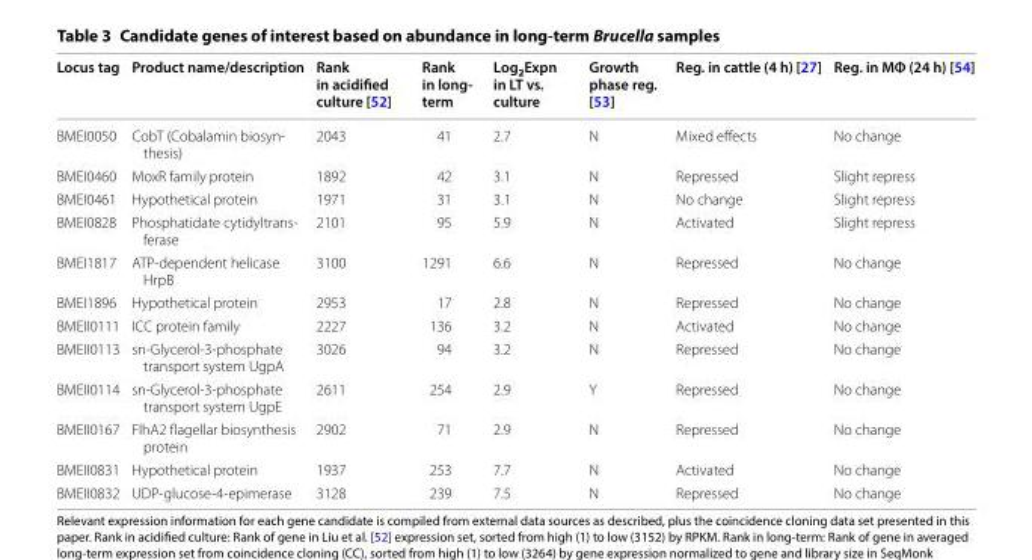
<table><thead><tr><td>Locus tag</td><td>Product name/description</td><td>Rank in acidified culture [52]</td><td>Rank in long‑ term</td><td>Log<sub>2</sub>Expn in LT vs. culture</td><td>Growth phase reg. [53]</td><td>Reg. in cattle (4 h) [27]</td><td>Reg. in MΦ (24 h) [54]</td></tr></thead><tbody><tr><td>BMEI0050</td><td>CobT (Cobalamin biosyn- thesis)</td><td>2043</td><td>41</td><td>2.7</td><td>N</td><td>Mixed effects</td><td>No change</td></tr><tr><td>BMEI0460</td><td>MoxR family protein</td><td>1892</td><td>42</td><td>3.1</td><td>N</td><td>Repressed</td><td>Slight repress</td></tr><tr><td>BMEI0461</td><td>Hypothetical protein</td><td>1971</td><td>31</td><td>3.1</td><td>N</td><td>No change</td><td>Slight repress</td></tr><tr><td>BMEI0828</td><td>Phosphatidate cytidyltrans- ferase</td><td>2101</td><td>95</td><td>5.9</td><td>N</td><td>Activated</td><td>Slight repress</td></tr><tr><td>BMEI1817</td><td>ATP-dependent helicase HrpB</td><td>3100</td><td>1291</td><td>6.6</td><td>N</td><td>Repressed</td><td>No change</td></tr><tr><td>BMEI1896</td><td>Hypothetical protein</td><td>2953</td><td>17</td><td>2.8</td><td>N</td><td>Repressed</td><td>No change</td></tr><tr><td>BMEII0111</td><td>ICC protein family</td><td>2227</td><td>136</td><td>3.2</td><td>N</td><td>Activated</td><td>No change</td></tr><tr><td>BMEII0113</td><td>sn-Glycerol-3-phosphate transport system UgpA</td><td>3026</td><td>94</td><td>3.2</td><td>N</td><td>Repressed</td><td>No change</td></tr><tr><td>BMEII0114</td><td>sn-Glycerol-3-phosphate transport system UgpE</td><td>2611</td><td>254</td><td>2.9</td><td>Y</td><td>Repressed</td><td>No change</td></tr><tr><td>BMEII0167</td><td>FlhA2 flagellar biosynthesis protein</td><td>2902</td><td>71</td><td>2.9</td><td>N</td><td>Repressed</td><td>No change</td></tr><tr><td>BMEII0831</td><td>Hypothetical protein</td><td>1937</td><td>253</td><td>7.7</td><td>N</td><td>Activated</td><td>No change</td></tr><tr><td>BMEII0832</td><td>UDP-glucose-4-epimerase</td><td>3128</td><td>239</td><td>7.5</td><td>N</td><td>Repressed</td><td>No change</td></tr></tbody></table>